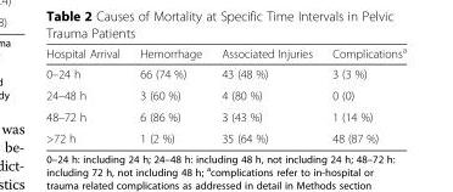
<table><thead><tr><td>Hospital Arrival</td><td>Hemorrhage</td><td>Associated Injuries</td><td>Complications<sup>a</sup></td></tr></thead><tbody><tr><td>0–24 h</td><td>66 (74 %)</td><td>43 (48 %)</td><td>3 (3 %)</td></tr><tr><td>24–48 h</td><td>3 (60 %)</td><td>4 (80 %)</td><td>0 (0)</td></tr><tr><td>48–72 h</td><td>6 (86 %)</td><td>3 (43 %)</td><td>1 (14 %)</td></tr><tr><td>&gt;72 h</td><td>1 (2 %)</td><td>35 (64 %)</td><td>48 (87 %)</td></tr></tbody></table>